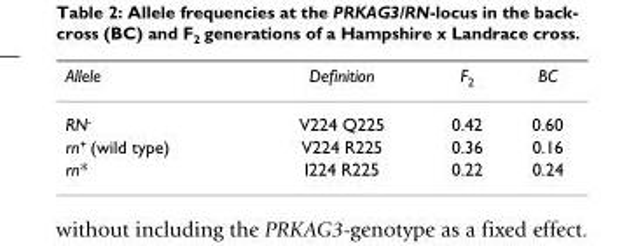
<table><thead><tr><td>Allele</td><td>Definition</td><td>F<sub>2</sub></td><td>BC</td></tr></thead><tbody><tr><td>RN<sup>-</sup></td><td>V224 Q225</td><td>0.42</td><td>0.60</td></tr><tr><td>rn<sup>+</sup> (wild type)</td><td>V224 R225</td><td>0.36</td><td>0.16</td></tr><tr><td>rn*</td><td>I224 R225</td><td>0.22</td><td>0.24</td></tr></tbody></table>